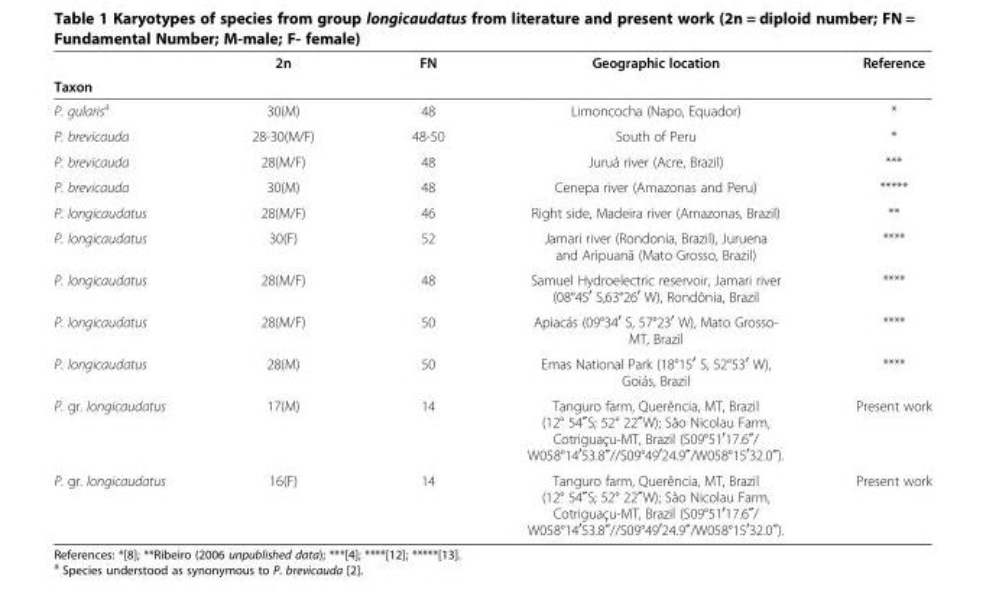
<table><thead><tr><td rowspan="2">Taxon</td><td rowspan="2">2n</td><td rowspan="2">FN</td><td rowspan="2">Geographic location</td><td rowspan="2">Reference</td></tr><tr></tr></thead><tbody><tr><td>P. gularis<sup>a</sup></td><td>30(M)</td><td>48</td><td>Limoncocha (Napo, Equador)</td><td>*</td></tr><tr><td>P. brevicauda</td><td>28-30(M/F)</td><td>48-50</td><td>South of Peru</td><td>*</td></tr><tr><td>P. brevicauda</td><td>28(M/F)</td><td>48</td><td>Juruá river (Acre, Brazil)</td><td>***</td></tr><tr><td>P. brevicauda</td><td>30(M)</td><td>48</td><td>Cenepa river (Amazonas and Peru)</td><td>*****</td></tr><tr><td>P. longicaudatus</td><td>28(M/F)</td><td>46</td><td>Right side, Madeira river (Amazonas, Brazil)</td><td>**</td></tr><tr><td>P. longicaudatus</td><td>30(F)</td><td>52</td><td>Jamari river (Rondonia, Brazil), Juruena and Aripuanã (Mato Grosso, Brazil)</td><td>****</td></tr><tr><td>P. longicaudatus</td><td>28(M/F)</td><td>48</td><td>Samuel Hydroelectric reservoir, Jamari river (08°45<sup>′</sup> S,63°26<sup>′</sup> W), Rondônia, Brazil</td><td>****</td></tr><tr><td>P. longicaudatus</td><td>28(M/F)</td><td>50</td><td>Apiacás (09°34<sup>′</sup> S, 57°23<sup>′</sup> W), Mato Grosso- MT, Brazil</td><td>****</td></tr><tr><td>P. longicaudatus</td><td>28(M)</td><td>50</td><td>Emas National Park (18°15<sup>′</sup> S, 52°53<sup>′</sup> W), Goiás, Brazil</td><td>****</td></tr><tr><td>P. gr. longicaudatus</td><td>17(M)</td><td>14</td><td>Tanguro farm, Querência, MT, Brazil (12° 54″S; 52° 22″W); São Nicolau Farm, Cotriguaçu-MT, Brazil (S09°51<sup>′</sup>17.6″/ W058°14<sup>′</sup>53.8″//S09°49<sup>′</sup>24.9″/W058°15<sup>′</sup>32.0″).</td><td>Present work</td></tr><tr><td>P. gr. longicaudatus</td><td>16(F)</td><td>14</td><td>Tanguro farm, Querência, MT, Brazil (12° 54″S; 52° 22″W); São Nicolau Farm, Cotriguaçu-MT, Brazil (S09°51<sup>′</sup>17.6″/ W058°14<sup>′</sup>53.8″//S09°49<sup>′</sup>24.9″/W058°15<sup>′</sup>32.0″).</td><td>Present work</td></tr></tbody></table>